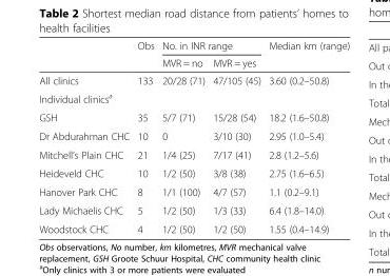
<table><thead><tr><td rowspan="2"></td><td rowspan="2">Obs</td><td colspan="2">No. in INR range</td><td rowspan="2">Median km (range)</td></tr><tr><td>MVR = no</td><td>MVR = yes</td></tr></thead><tbody><tr><td>All clinics</td><td>133</td><td>20/28 (71)</td><td>47/105 (45)</td><td>3.60 (0.2–50.8)</td></tr><tr><td colspan="5">Individual clinics<sup>a</sup></td></tr><tr><td>GSH</td><td>35</td><td>5/7 (71)</td><td>15/28 (54)</td><td>18.2 (1.6–50.8)</td></tr><tr><td>Dr Abdurahman CHC</td><td>10</td><td>0</td><td>3/10 (30)</td><td>2.95 (1.0–5.4)</td></tr><tr><td>Mitchell’s Plain CHC</td><td>21</td><td>1/4 (25)</td><td>7/17 (41)</td><td>2.8 (1.2–5.6)</td></tr><tr><td>Heideveld CHC</td><td>10</td><td>1/2 (50)</td><td>3/8 (38)</td><td>2.75 (1.6–6.5)</td></tr><tr><td>Hanover Park CHC</td><td>8</td><td>1/1 (100)</td><td>4/7 (57)</td><td>1.1 (0.2–9.1)</td></tr><tr><td>Lady Michaelis CHC</td><td>5</td><td>1/2 (50)</td><td>1/3 (33)</td><td>6.4 (1.8–14.0)</td></tr><tr><td>Woodstock CHC</td><td>4</td><td>1/2 (50)</td><td>1/2 (50)</td><td>1.55 (0.4–14.9)</td></tr></tbody></table>